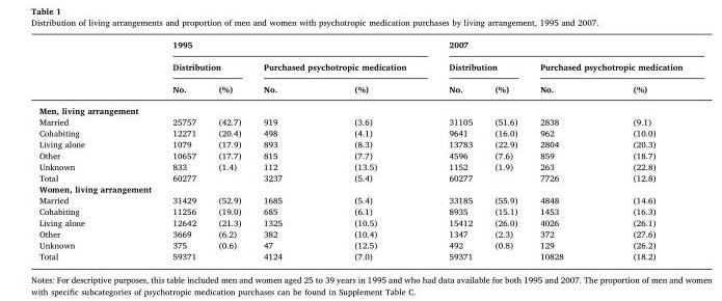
<table><thead><tr><td rowspan="3"></td><td colspan="4">1995</td><td colspan="4">2007</td></tr><tr><td colspan="2">Distribution</td><td colspan="2">Purchased psychotropic medication</td><td colspan="2">Distribution</td><td colspan="2">Purchased psychotropic medication</td></tr><tr><td>No.</td><td>(%)</td><td>No.</td><td>(%)</td><td>No.</td><td>(%)</td><td>No.</td><td>(%)</td></tr></thead><tbody><tr><td colspan="9">Men, living arrangement</td></tr><tr><td>Married</td><td>25757</td><td>(42.7)</td><td>919</td><td>(3.6)</td><td>31105</td><td>(51.6)</td><td>2838</td><td>(9.1)</td></tr><tr><td>Cohabiting</td><td>12271</td><td>(20.4)</td><td>498</td><td>(4.1)</td><td>9641</td><td>(16.0)</td><td>962</td><td>(10.0)</td></tr><tr><td>Living alone</td><td>1079</td><td>(17.9)</td><td>893</td><td>(8.3)</td><td>13783</td><td>(22.9)</td><td>2804</td><td>(20.3)</td></tr><tr><td>Other</td><td>10657</td><td>(17.7)</td><td>815</td><td>(7.7)</td><td>4596</td><td>(7.6)</td><td>859</td><td>(18.7)</td></tr><tr><td>Unknown</td><td>833</td><td>(1.4)</td><td>112</td><td>(13.5)</td><td>1152</td><td>(1.9)</td><td>263</td><td>(22.8)</td></tr><tr><td>Total</td><td>60277</td><td></td><td>3237</td><td>(5.4)</td><td>60277</td><td></td><td>7726</td><td>(12.8)</td></tr><tr><td colspan="9">Women, living arrangement</td></tr><tr><td>Married</td><td>31429</td><td>(52.9)</td><td>1685</td><td>(5.4)</td><td>33185</td><td>(55.9)</td><td>4848</td><td>(14.6)</td></tr><tr><td>Cohabiting</td><td>11256</td><td>(19.0)</td><td>685</td><td>(6.1)</td><td>8935</td><td>(15.1)</td><td>1453</td><td>(16.3)</td></tr><tr><td>Living alone</td><td>12642</td><td>(21.3)</td><td>1325</td><td>(10.5)</td><td>15412</td><td>(26.0)</td><td>4026</td><td>(26.1)</td></tr><tr><td>Other</td><td>3669</td><td>(6.2)</td><td>382</td><td>(10.4)</td><td>1347</td><td>(2.3)</td><td>372</td><td>(27.6)</td></tr><tr><td>Unknown</td><td>375</td><td>(0.6)</td><td>47</td><td>(12.5)</td><td>492</td><td>(0.8)</td><td>129</td><td>(26.2)</td></tr><tr><td>Total</td><td>59371</td><td></td><td>4124</td><td>(7.0)</td><td>59371</td><td></td><td>10828</td><td>(18.2)</td></tr></tbody></table>